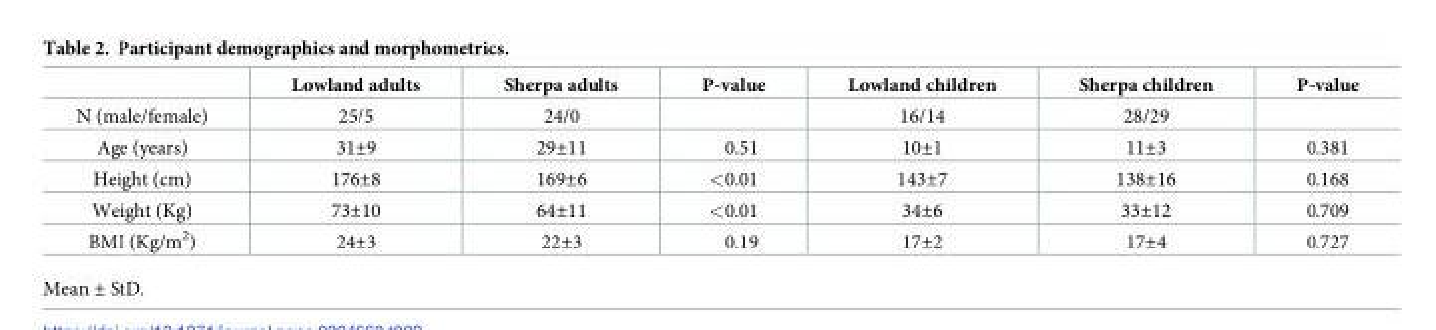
<table><thead><tr><td></td><td>Lowland adults</td><td>Sherpa adults</td><td>P-value</td><td>Lowland children</td><td>Sherpa children</td><td>P-value</td></tr></thead><tbody><tr><td>N (male/female)</td><td>25/5</td><td>24/0</td><td></td><td>16/14</td><td>28/29</td><td></td></tr><tr><td>Age (years)</td><td>31±9</td><td>29±11</td><td>0.51</td><td>10±1</td><td>11±3</td><td>0.381</td></tr><tr><td>Height (cm)</td><td>176±8</td><td>169±6</td><td>&lt;0.01</td><td>143±7</td><td>138±16</td><td>0.168</td></tr><tr><td>Weight (Kg)</td><td>73±10</td><td>64±11</td><td>&lt;0.01</td><td>34±6</td><td>33±12</td><td>0.709</td></tr><tr><td>BMI (Kg/m<sup>2</sup>)</td><td>24±3</td><td>22±3</td><td>0.19</td><td>17±2</td><td>17±4</td><td>0.727</td></tr></tbody></table>